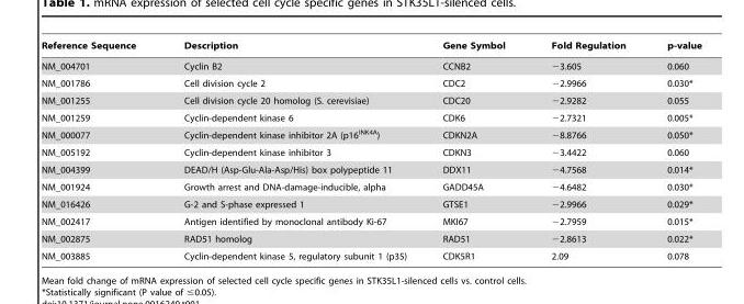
<table><thead><tr><td>Reference Sequence</td><td>Description</td><td>Gene Symbol</td><td>Fold Regulation</td><td>p-value</td></tr></thead><tbody><tr><td>NM_004701</td><td>Cyclin B2</td><td>CCNB2</td><td>−3.605</td><td>0.060</td></tr><tr><td>NM_001786</td><td>Cell division cycle 2</td><td>CDC2</td><td>−2.9966</td><td>0.030*</td></tr><tr><td>NM_001255</td><td>Cell division cycle 20 homolog (S. cerevisiae)</td><td>CDC20</td><td>−2.9282</td><td>0.055</td></tr><tr><td>NM_001259</td><td>Cyclin-dependent kinase 6</td><td>CDK6</td><td>−2.7321</td><td>0.005*</td></tr><tr><td>NM_000077</td><td>Cyclin-dependent kinase inhibitor 2A (p16<sup>INK4A</sup>)</td><td>CDKN2A</td><td>−8.8766</td><td>0.050*</td></tr><tr><td>NM_005192</td><td>Cyclin-dependent kinase inhibitor 3</td><td>CDKN3</td><td>−3.4422</td><td>0.060</td></tr><tr><td>NM_004399</td><td>DEAD/H (Asp-Glu-Ala-Asp/His) box polypeptide 11</td><td>DDX11</td><td>−4.7568</td><td>0.014*</td></tr><tr><td>NM_001924</td><td>Growth arrest and DNA-damage-inducible, alpha</td><td>GADD45A</td><td>−4.6482</td><td>0.030*</td></tr><tr><td>NM_016426</td><td>G-2 and S-phase expressed 1</td><td>GTSE1</td><td>−2.9966</td><td>0.029*</td></tr><tr><td>NM_002417</td><td>Antigen identified by monoclonal antibody Ki-67</td><td>MKI67</td><td>−2.7959</td><td>0.015*</td></tr><tr><td>NM_002875</td><td>RAD51 homolog</td><td>RAD51</td><td>−2.8613</td><td>0.022*</td></tr><tr><td>NM_003885</td><td>Cyclin-dependent kinase 5, regulatory subunit 1 (p35)</td><td>CDK5R1</td><td>2.09</td><td>0.078</td></tr></tbody></table>